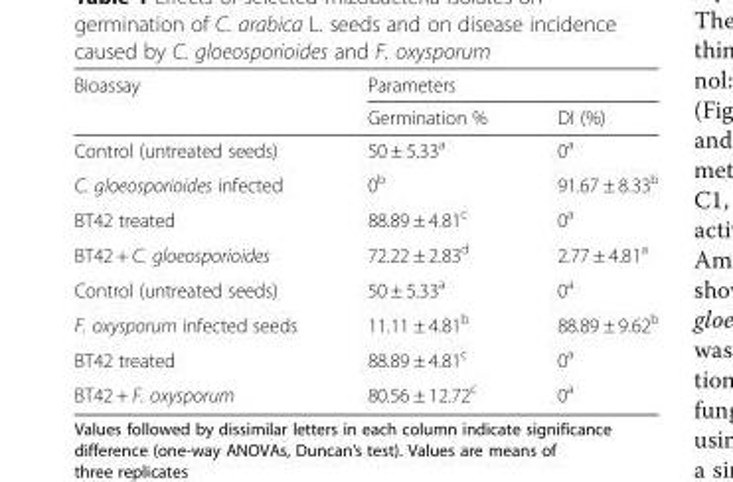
<table><thead><tr><td rowspan="2">Bioassay</td><td colspan="2">Parameters</td></tr><tr><td>Germination %</td><td>DI (%)</td></tr></thead><tbody><tr><td>Control (untreated seeds)</td><td>50 ± 5.33<sup>a</sup></td><td>0<sup>a</sup></td></tr><tr><td>C. gloeosporioides infected</td><td>0<sup>b</sup></td><td>91.67 ± 8.33<sup>b</sup></td></tr><tr><td>BT42 treated</td><td>88.89 ± 4.81<sup>c</sup></td><td>0<sup>a</sup></td></tr><tr><td>BT42 + C. gloeosporioides</td><td>72.22 ± 2.83<sup>d</sup></td><td>2.77 ± 4.81<sup>a</sup></td></tr><tr><td>Control (untreated seeds)</td><td>50 ± 5.33<sup>a</sup></td><td>0<sup>a</sup></td></tr><tr><td>F. oxysporum infected seeds</td><td>11.11 ± 4.81<sup>b</sup></td><td>88.89 ± 9.62<sup>b</sup></td></tr><tr><td>BT42 treated</td><td>88.89 ± 4.81<sup>c</sup></td><td>0<sup>a</sup></td></tr><tr><td>BT42 + F. oxysporum</td><td>80.56 ± 12.72<sup>c</sup></td><td>0<sup>a</sup></td></tr></tbody></table>